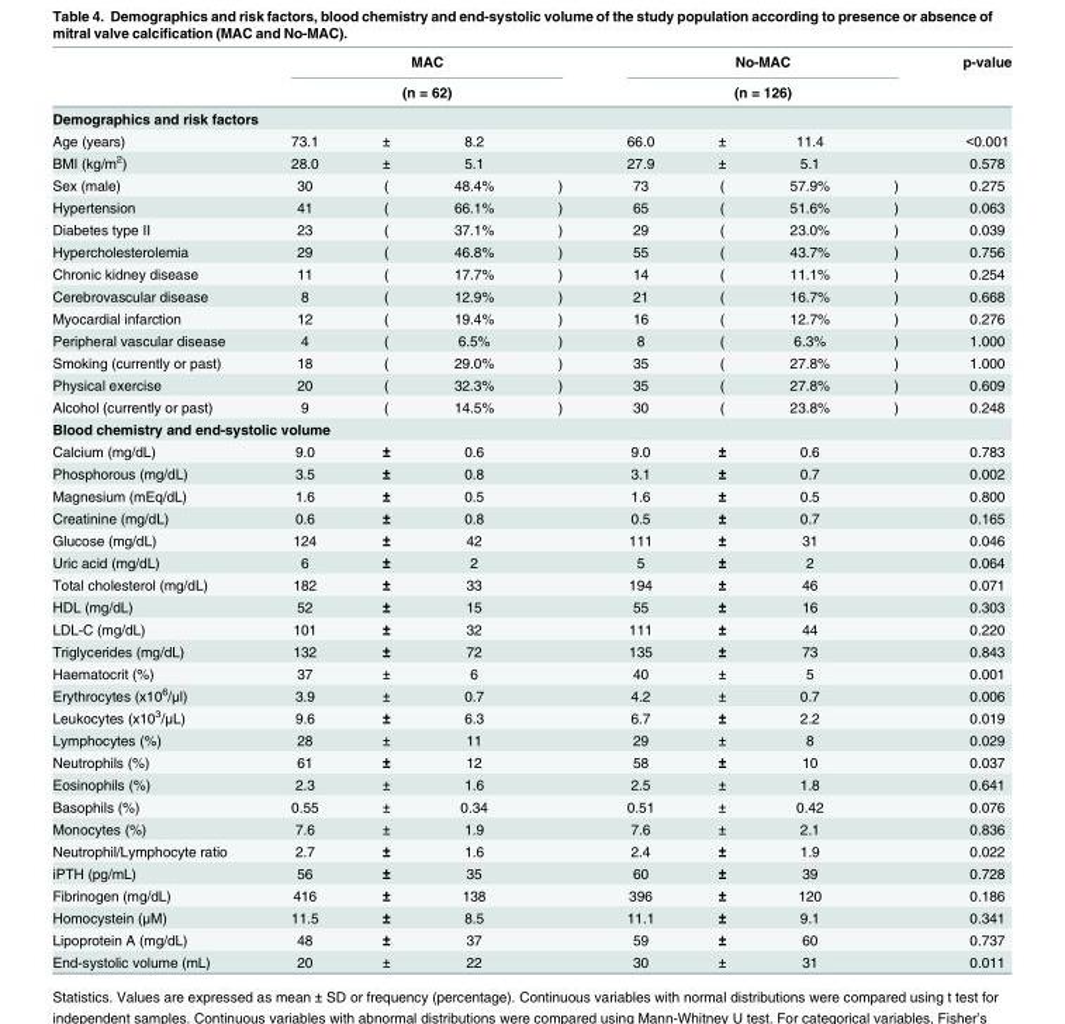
<table><thead><tr><td rowspan="2"></td><td rowspan="2" colspan="4">MAC (n = 62)</td><td rowspan="2" colspan="4">No-MAC (n = 126)</td><td rowspan="2">p-value</td></tr><tr></tr><tr><td colspan="10">Demographics and risk factors</td></tr><tr><td>Age (years)</td><td>73.1</td><td>±</td><td>8.2</td><td></td><td>66.0</td><td>±</td><td>11.4</td><td></td><td>&lt;0.001</td></tr></thead><tbody><tr><td>BMI (kg/m<sup>2</sup>)</td><td>28.0</td><td>±</td><td>5.1</td><td></td><td>27.9</td><td>±</td><td>5.1</td><td></td><td>0.578</td></tr><tr><td>Sex (male)</td><td>30</td><td>(</td><td>48.4%</td><td>)</td><td>73</td><td>(</td><td>57.9%</td><td>)</td><td>0.275</td></tr><tr><td>Hypertension</td><td>41</td><td>(</td><td>66.1%</td><td>)</td><td>65</td><td>(</td><td>51.6%</td><td>)</td><td>0.063</td></tr><tr><td>Diabetes type II</td><td>23</td><td>(</td><td>37.1%</td><td>)</td><td>29</td><td>(</td><td>23.0%</td><td>)</td><td>0.039</td></tr><tr><td>Hypercholesterolemia</td><td>29</td><td>(</td><td>46.8%</td><td>)</td><td>55</td><td>(</td><td>43.7%</td><td>)</td><td>0.756</td></tr><tr><td>Chronic kidney disease</td><td>11</td><td>(</td><td>17.7%</td><td>)</td><td>14</td><td>(</td><td>11.1%</td><td>)</td><td>0.254</td></tr><tr><td>Cerebrovascular disease</td><td>8</td><td>(</td><td>12.9%</td><td>)</td><td>21</td><td>(</td><td>16.7%</td><td>)</td><td>0.668</td></tr><tr><td>Myocardial infarction</td><td>12</td><td>(</td><td>19.4%</td><td>)</td><td>16</td><td>(</td><td>12.7%</td><td>)</td><td>0.276</td></tr><tr><td>Peripheral vascular disease</td><td>4</td><td>(</td><td>6.5%</td><td>)</td><td>8</td><td>(</td><td>6.3%</td><td>)</td><td>1.000</td></tr><tr><td>Smoking (currently or past)</td><td>18</td><td>(</td><td>29.0%</td><td>)</td><td>35</td><td>(</td><td>27.8%</td><td>)</td><td>1.000</td></tr><tr><td>Physical exercise</td><td>20</td><td>(</td><td>32.3%</td><td>)</td><td>35</td><td>(</td><td>27.8%</td><td>)</td><td>0.609</td></tr><tr><td>Alcohol (currently or past)</td><td>9</td><td>(</td><td>14.5%</td><td>)</td><td>30</td><td>(</td><td>23.8%</td><td>)</td><td>0.248</td></tr><tr><td colspan="10">Blood chemistry and end-systolic volume</td></tr><tr><td>Calcium (mg/dL)</td><td>9.0</td><td>±</td><td>0.6</td><td></td><td>9.0</td><td>±</td><td>0.6</td><td></td><td>0.783</td></tr><tr><td>Phosphorous (mg/dL)</td><td>3.5</td><td>±</td><td>0.8</td><td></td><td>3.1</td><td>±</td><td>0.7</td><td></td><td>0.002</td></tr><tr><td>Magnesium (mEq/dL)</td><td>1.6</td><td>±</td><td>0.5</td><td></td><td>1.6</td><td>±</td><td>0.5</td><td></td><td>0.800</td></tr><tr><td>Creatinine (mg/dL)</td><td>0.6</td><td>±</td><td>0.8</td><td></td><td>0.5</td><td>±</td><td>0.7</td><td></td><td>0.165</td></tr><tr><td>Glucose (mg/dL)</td><td>124</td><td>±</td><td>42</td><td></td><td>111</td><td>±</td><td>31</td><td></td><td>0.046</td></tr><tr><td>Uric acid (mg/dL)</td><td>6</td><td>±</td><td>2</td><td></td><td>5</td><td>±</td><td>2</td><td></td><td>0.064</td></tr><tr><td>Total cholesterol (mg/dL)</td><td>182</td><td>±</td><td>33</td><td></td><td>194</td><td>±</td><td>46</td><td></td><td>0.071</td></tr><tr><td>HDL (mg/dL)</td><td>52</td><td>±</td><td>15</td><td></td><td>55</td><td>±</td><td>16</td><td></td><td>0.303</td></tr><tr><td>LDL-C (mg/dL)</td><td>101</td><td>±</td><td>32</td><td></td><td>111</td><td>±</td><td>44</td><td></td><td>0.220</td></tr><tr><td>Triglycerides (mg/dL)</td><td>132</td><td>±</td><td>72</td><td></td><td>135</td><td>±</td><td>73</td><td></td><td>0.843</td></tr><tr><td>Haematocrit (%)</td><td>37</td><td>±</td><td>6</td><td></td><td>40</td><td>±</td><td>5</td><td></td><td>0.001</td></tr><tr><td>Erythrocytes (x10<sup>6</sup>/μl)</td><td>3.9</td><td>±</td><td>0.7</td><td></td><td>4.2</td><td>±</td><td>0.7</td><td></td><td>0.006</td></tr><tr><td>Leukocytes (x10<sup>3</sup>/μL)</td><td>9.6</td><td>±</td><td>6.3</td><td></td><td>6.7</td><td>±</td><td>2.2</td><td></td><td>0.019</td></tr><tr><td>Lymphocytes (%)</td><td>28</td><td>±</td><td>11</td><td></td><td>29</td><td>±</td><td>8</td><td></td><td>0.029</td></tr><tr><td>Neutrophils (%)</td><td>61</td><td>±</td><td>12</td><td></td><td>58</td><td>±</td><td>10</td><td></td><td>0.037</td></tr><tr><td>Eosinophils (%)</td><td>2.3</td><td>±</td><td>1.6</td><td></td><td>2.5</td><td>±</td><td>1.8</td><td></td><td>0.641</td></tr><tr><td>Basophils (%)</td><td>0.55</td><td>±</td><td>0.34</td><td></td><td>0.51</td><td>±</td><td>0.42</td><td></td><td>0.076</td></tr><tr><td>Monocytes (%)</td><td>7.6</td><td>±</td><td>1.9</td><td></td><td>7.6</td><td>±</td><td>2.1</td><td></td><td>0.836</td></tr><tr><td>Neutrophil/Lymphocyte ratio</td><td>2.7</td><td>±</td><td>1.6</td><td></td><td>2.4</td><td>±</td><td>1.9</td><td></td><td>0.022</td></tr><tr><td>iPTH (pg/mL)</td><td>56</td><td>±</td><td>35</td><td></td><td>60</td><td>±</td><td>39</td><td></td><td>0.728</td></tr><tr><td>Fibrinogen (mg/dL)</td><td>416</td><td>±</td><td>138</td><td></td><td>396</td><td>±</td><td>120</td><td></td><td>0.186</td></tr><tr><td>Homocystein (μM)</td><td>11.5</td><td>±</td><td>8.5</td><td></td><td>11.1</td><td>±</td><td>9.1</td><td></td><td>0.341</td></tr><tr><td>Lipoprotein A (mg/dL)</td><td>48</td><td>±</td><td>37</td><td></td><td>59</td><td>±</td><td>60</td><td></td><td>0.737</td></tr><tr><td>End-systolic volume (mL)</td><td>20</td><td>±</td><td>22</td><td></td><td>30</td><td>±</td><td>31</td><td></td><td>0.011</td></tr></tbody></table>